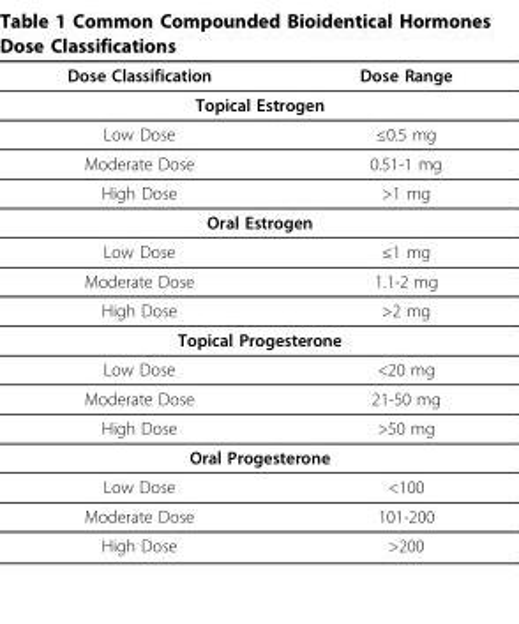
<table><thead><tr><td>Dose Classification</td><td>Dose Range</td></tr></thead><tbody><tr><td colspan="2">Topical Estrogen</td></tr><tr><td>Low Dose</td><td>≤0.5 mg</td></tr><tr><td>Moderate Dose</td><td>0.51-1 mg</td></tr><tr><td>High Dose</td><td>&gt;1 mg</td></tr><tr><td colspan="2">Oral Estrogen</td></tr><tr><td>Low Dose</td><td>≤1 mg</td></tr><tr><td>Moderate Dose</td><td>1.1-2 mg</td></tr><tr><td>High Dose</td><td>&gt;2 mg</td></tr><tr><td colspan="2">Topical Progesterone</td></tr><tr><td>Low Dose</td><td>&lt;20 mg</td></tr><tr><td>Moderate Dose</td><td>21-50 mg</td></tr><tr><td>High Dose</td><td>&gt;50 mg</td></tr><tr><td colspan="2">Oral Progesterone</td></tr><tr><td>Low Dose</td><td>&lt;100</td></tr><tr><td>Moderate Dose</td><td>101-200</td></tr><tr><td>High Dose</td><td>&gt;200</td></tr></tbody></table>